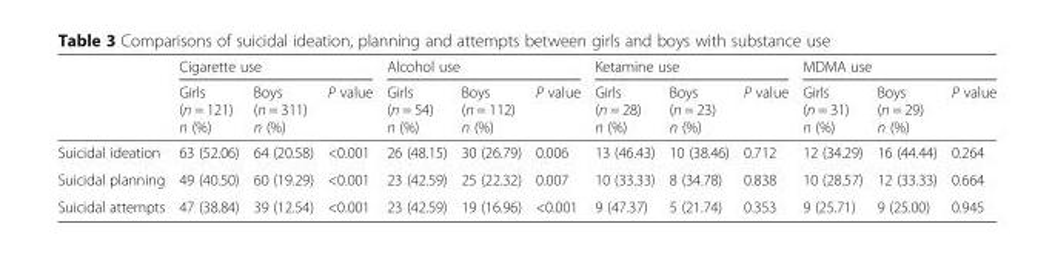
<table><thead><tr><td rowspan="2"></td><td colspan="3">Cigarette use</td><td colspan="3">Alcohol use</td><td colspan="3">Ketamine use</td><td colspan="3">MDMA use</td></tr><tr><td>Girls (n = 121) n (%)</td><td>Boys (n = 311) n (%)</td><td>P value</td><td>Girls (n = 54) n (%)</td><td>Boys (n = 112) n (%)</td><td>P value</td><td>Girls (n = 28) n (%)</td><td>Boys (n = 23) n (%)</td><td>P value</td><td>Girls (n = 31) n (%)</td><td>Boys (n = 29) n (%)</td><td>P value</td></tr></thead><tbody><tr><td>Suicidal ideation</td><td>63 (52.06)</td><td>64 (20.58)</td><td>&lt;0.001</td><td>26 (48.15)</td><td>30 (26.79)</td><td>0.006</td><td>13 (46.43)</td><td>10 (38.46)</td><td>0.712</td><td>12 (34.29)</td><td>16 (44.44)</td><td>0.264</td></tr><tr><td>Suicidal planning</td><td>49 (40.50)</td><td>60 (19.29)</td><td>&lt;0.001</td><td>23 (42.59)</td><td>25 (22.32)</td><td>0.007</td><td>10 (33.33)</td><td>8 (34.78)</td><td>0.838</td><td>10 (28.57)</td><td>12 (33.33)</td><td>0.664</td></tr><tr><td>Suicidal attempts</td><td>47 (38.84)</td><td>39 (12.54)</td><td>&lt;0.001</td><td>23 (42.59)</td><td>19 (16.96)</td><td>&lt;0.001</td><td>9 (47.37)</td><td>5 (21.74)</td><td>0.353</td><td>9 (25.71)</td><td>9 (25.00)</td><td>0.945</td></tr></tbody></table>